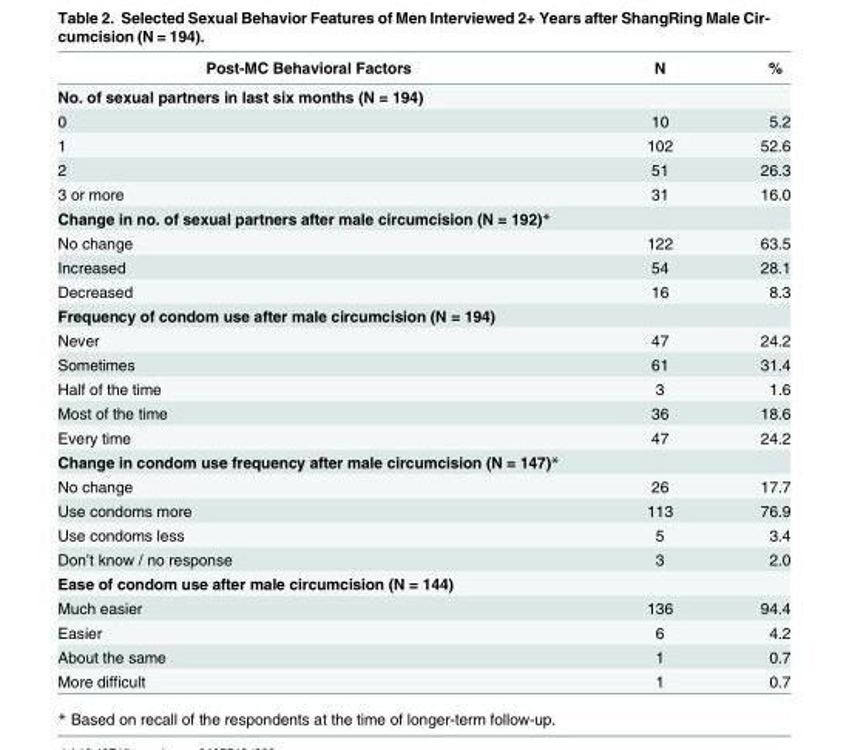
<table><thead><tr><td>Post-MC Behavioral Factors</td><td>N</td><td>%</td></tr></thead><tbody><tr><td colspan="3">No. of sexual partners in last six months (N = 194)</td></tr><tr><td>0</td><td>10</td><td>5.2</td></tr><tr><td>1</td><td>102</td><td>52.6</td></tr><tr><td>2</td><td>51</td><td>26.3</td></tr><tr><td>3 or more</td><td>31</td><td>16.0</td></tr><tr><td colspan="3">Change in no. of sexual partners after male circumcision (N = 192)*</td></tr><tr><td>No change</td><td>122</td><td>63.5</td></tr><tr><td>Increased</td><td>54</td><td>28.1</td></tr><tr><td>Decreased</td><td>16</td><td>8.3</td></tr><tr><td colspan="3">Frequency of condom use after male circumcision (N = 194)</td></tr><tr><td>Never</td><td>47</td><td>24.2</td></tr><tr><td>Sometimes</td><td>61</td><td>31.4</td></tr><tr><td>Half of the time</td><td>3</td><td>1.6</td></tr><tr><td>Most of the time</td><td>36</td><td>18.6</td></tr><tr><td>Every time</td><td>47</td><td>24.2</td></tr><tr><td colspan="3">Change in condom use frequency after male circumcision (N = 147)*</td></tr><tr><td>No change</td><td>26</td><td>17.7</td></tr><tr><td>Use condoms more</td><td>113</td><td>76.9</td></tr><tr><td>Use condoms less</td><td>5</td><td>3.4</td></tr><tr><td>Don’t know / no response</td><td>3</td><td>2.0</td></tr><tr><td colspan="3">Ease of condom use after male circumcision (N = 144)</td></tr><tr><td>Much easier</td><td>136</td><td>94.4</td></tr><tr><td>Easier</td><td>6</td><td>4.2</td></tr><tr><td>About the same</td><td>1</td><td>0.7</td></tr><tr><td>More difficult</td><td>1</td><td>0.7</td></tr></tbody></table>